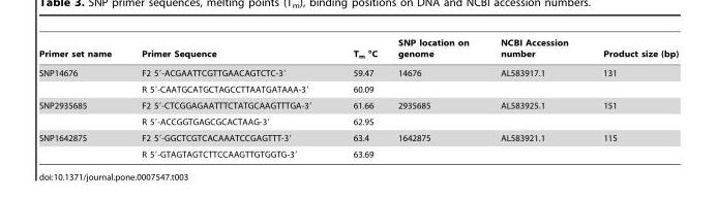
<table><thead><tr><td>Primer set name</td><td>Primer Sequence</td><td>T<sub>m</sub> °C</td><td>SNP location on genome</td><td>NCBI Accession number</td><td>Product size (bp)</td></tr></thead><tbody><tr><td rowspan="2">SNP14676</td><td>F2 5′-ACGAATTCGTTGAACAGTCTC-3′</td><td>59.47</td><td>14676</td><td>AL583917.1</td><td>131</td></tr><tr><td>R 5′-CAATGCATGCTAGCCTTAATGATAAA-3′</td><td>60.09</td><td></td><td></td><td></td></tr><tr><td rowspan="2">SNP2935685</td><td>F2 5′-CTCGGAGAATTTCTATGCAAGTTTGA-3′</td><td>61.66</td><td>2935685</td><td>AL583925.1</td><td>151</td></tr><tr><td>R 5′-ACCGGTGAGCGCACTAAG-3′</td><td>62.95</td><td></td><td></td><td></td></tr><tr><td rowspan="2">SNP1642875</td><td>F2 5′-GGCTCGTCACAAATCCGAGTTT-3′</td><td>63.4</td><td>1642875</td><td>AL583921.1</td><td>115</td></tr><tr><td>R 5′-GTAGTAGTCTTCCAAGTTGTGGTG-3′</td><td>63.69</td><td></td><td></td><td></td></tr></tbody></table>